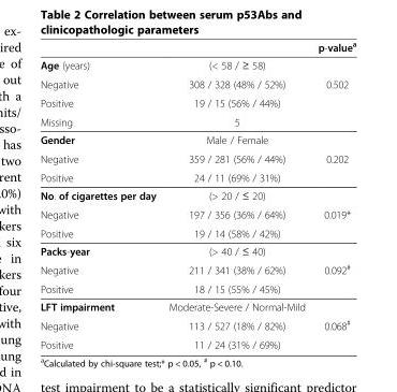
<table><thead><tr><td></td><td></td><td>p-value<sup>a</sup></td></tr></thead><tbody><tr><td>Age (years)</td><td>(&lt; 58 / ≥ 58)</td><td></td></tr><tr><td>Negative</td><td>308 / 328 (48% / 52%)</td><td>0.502</td></tr><tr><td>Positive</td><td>19 / 15 (56% / 44%)</td><td></td></tr><tr><td>Missing</td><td>5</td><td></td></tr><tr><td>Gender</td><td>Male / Female</td><td></td></tr><tr><td>Negative</td><td>359 / 281 (56% / 44%)</td><td>0.202</td></tr><tr><td>Positive</td><td>24 / 11 (69% / 31%)</td><td></td></tr><tr><td>No. of cigarettes per day</td><td>(&gt; 20 / ≤ 20)</td><td></td></tr><tr><td>Negative</td><td>197 / 356 (36% / 64%)</td><td>0.019*</td></tr><tr><td>Positive</td><td>19 / 14 (58% / 42%)</td><td></td></tr><tr><td>Packs-year</td><td>(&gt; 40 / ≤ 40)</td><td></td></tr><tr><td>Negative</td><td>211 / 341 (38% / 62%)</td><td>0.092<sup>#</sup></td></tr><tr><td>Positive</td><td>18 / 15 (55% / 45%)</td><td></td></tr><tr><td>LFT impairment</td><td>Moderate-Severe / Normal-Mild</td><td></td></tr><tr><td>Negative</td><td>113 / 527 (18% / 82%)</td><td>0.068<sup>#</sup></td></tr><tr><td>Positive</td><td>11 / 24 (31% / 69%)</td><td></td></tr></tbody></table>